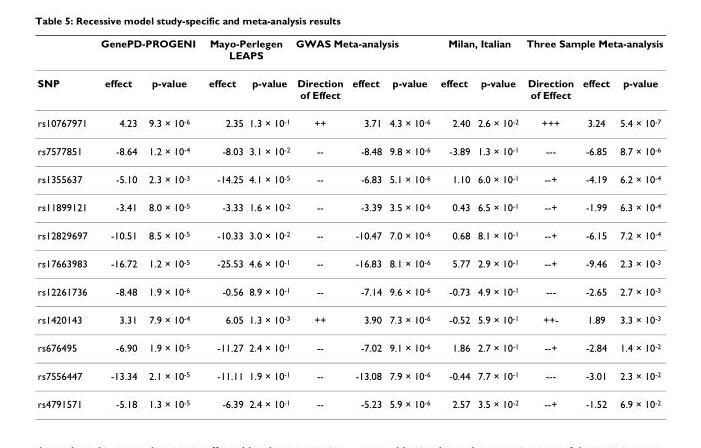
<table><thead><tr><td rowspan="2">SNP</td><td colspan="2">GenePD-PROGENI</td><td colspan="2">Mayo-Perlegen LEAPS</td><td colspan="3">GWAS Meta-analysis</td><td colspan="2">Milan, Italian</td><td colspan="3">Three Sample Meta-analysis</td></tr><tr><td>effect</td><td>p-value</td><td>effect</td><td>p-value</td><td>Direction of Effect</td><td>effect</td><td>p-value</td><td>effect</td><td>p-value</td><td>Direction of Effect</td><td>effect</td><td>p-value</td></tr></thead><tbody><tr><td>rs10767971</td><td>4.23</td><td>9.3 × 10-6</td><td>2.35</td><td>1.3 × 10-1</td><td>++</td><td>3.71</td><td>4.3 × 10-6</td><td>2.40</td><td>2.6 × 10-2</td><td>+++</td><td>3.24</td><td>5.4 × 10-7</td></tr><tr><td>rs7577851</td><td>-8.64</td><td>1.2 × 10-4</td><td>-8.03</td><td>3.1 × 10-2</td><td>--</td><td>-8.48</td><td>9.8 × 10-6</td><td>-3.89</td><td>1.3 × 10-1</td><td>---</td><td>-6.85</td><td>8.7 × 10-6</td></tr><tr><td>rs1355637</td><td>-5.10</td><td>2.3 × 10-3</td><td>-14.25</td><td>4.1 × 10-5</td><td>--</td><td>-6.83</td><td>5.1 × 10-6</td><td>1.10</td><td>6.0 × 10-1</td><td>--+</td><td>-4.19</td><td>6.2 × 10-4</td></tr><tr><td>rs11899121</td><td>-3.41</td><td>8.0 × 10-5</td><td>-3.33</td><td>1.6 × 10-2</td><td>--</td><td>-3.39</td><td>3.5 × 10-6</td><td>0.43</td><td>6.5 × 10-1</td><td>--+</td><td>-1.99</td><td>6.3 × 10-4</td></tr><tr><td>rs12829697</td><td>-10.51</td><td>8.5 × 10-5</td><td>-10.33</td><td>3.0 × 10-2</td><td>--</td><td>-10.47</td><td>7.0 × 10-6</td><td>0.68</td><td>8.1 × 10-1</td><td>--+</td><td>-6.15</td><td>7.2 × 10-4</td></tr><tr><td>rs17663983</td><td>-16.72</td><td>1.2 × 10-5</td><td>-25.53</td><td>4.6 × 10-1</td><td>--</td><td>-16.83</td><td>8.1 × 10-6</td><td>5.77</td><td>2.9 × 10-1</td><td>--+</td><td>-9.46</td><td>2.3 × 10-3</td></tr><tr><td>rs12261736</td><td>-8.48</td><td>1.9 × 10-6</td><td>-0.56</td><td>8.9 × 10-1</td><td>--</td><td>-7.14</td><td>9.6 × 10-6</td><td>-0.73</td><td>4.9 × 10-1</td><td>---</td><td>-2.65</td><td>2.7 × 10-3</td></tr><tr><td>rs1420143</td><td>3.31</td><td>7.9 × 10-4</td><td>6.05</td><td>1.3 × 10-3</td><td>++</td><td>3.90</td><td>7.3 × 10-6</td><td>-0.52</td><td>5.9 × 10-1</td><td>++-</td><td>1.89</td><td>3.3 × 10-3</td></tr><tr><td>rs676495</td><td>-6.90</td><td>1.9 × 10-5</td><td>-11.27</td><td>2.4 × 10-1</td><td>--</td><td>-7.02</td><td>9.1 × 10-6</td><td>1.86</td><td>2.7 × 10-1</td><td>--+</td><td>-2.84</td><td>1.4 × 10-2</td></tr><tr><td>rs7556447</td><td>-13.34</td><td>2.1 × 10-5</td><td>-11.11</td><td>1.9 × 10-1</td><td>--</td><td>-13.08</td><td>7.9 × 10-6</td><td>-0.44</td><td>7.7 × 10-1</td><td>---</td><td>-3.01</td><td>2.3 × 10-2</td></tr><tr><td>rs4791571</td><td>-5.18</td><td>1.3 × 10-5</td><td>-6.39</td><td>2.4 × 10-1</td><td>--</td><td>-5.23</td><td>5.9 × 10-6</td><td>2.57</td><td>3.5 × 10-2</td><td>--+</td><td>-1.52</td><td>6.9 × 10-2</td></tr></tbody></table>